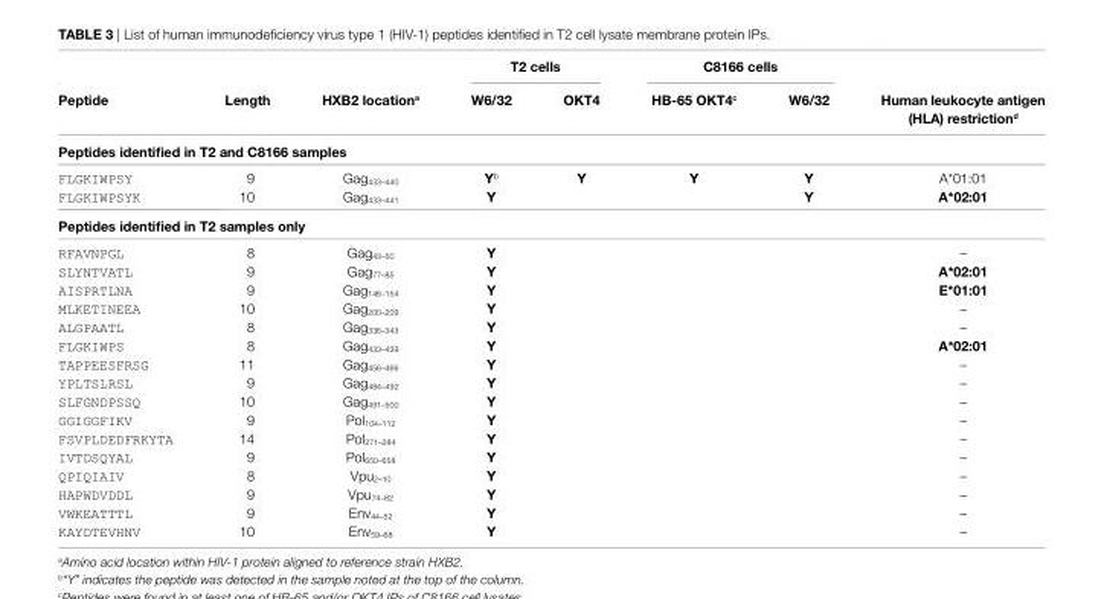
<table><thead><tr><td rowspan="2">Peptide</td><td rowspan="2">length</td><td rowspan="2">hXB2 location<sup>a</sup></td><td colspan="2">T2 cells</td><td colspan="2">c8166 cells</td><td rowspan="2">human leukocyte antigen (hla) restriction<sup>d</sup></td></tr><tr><td>W6/32</td><td>OKT4</td><td>hB-65 OKT4<sup>c</sup></td><td>W6/32</td></tr></thead><tbody><tr><td colspan="8">Peptides identified in T2 and c8166 samples</td></tr><tr><td>FLGKIWPSY</td><td>9</td><td>Gag<sub>433–440</sub></td><td>Y<sup>b</sup></td><td>Y</td><td>Y</td><td>Y</td><td>A*01:01</td></tr><tr><td>FLGKIWPSYK</td><td>10</td><td>Gag<sub>433–441</sub></td><td>Y</td><td></td><td></td><td>Y</td><td>a*02:01</td></tr><tr><td colspan="8">Peptides identified in T2 samples only</td></tr><tr><td>RFAVNPGL</td><td>8</td><td>Gag<sub>43–50</sub></td><td>Y</td><td></td><td></td><td></td><td>–</td></tr><tr><td>SLYNTVATL</td><td>9</td><td>Gag<sub>77–85</sub></td><td>Y</td><td></td><td></td><td></td><td>a*02:01</td></tr><tr><td>AISPRTLNA</td><td>9</td><td>Gag<sub>146–154</sub></td><td>Y</td><td></td><td></td><td></td><td>e*01:01</td></tr><tr><td>MLKETINEEA</td><td>10</td><td>Gag<sub>200–209</sub></td><td>Y</td><td></td><td></td><td></td><td>–</td></tr><tr><td>ALGPAATL</td><td>8</td><td>Gag<sub>336–343</sub></td><td>Y</td><td></td><td></td><td></td><td>–</td></tr><tr><td>FLGKIWPS</td><td>8</td><td>Gag<sub>433–439</sub></td><td>Y</td><td></td><td></td><td></td><td>a*02:01</td></tr><tr><td>TAPPEESFRSG</td><td>11</td><td>Gag<sub>456–466</sub></td><td>Y</td><td></td><td></td><td></td><td>–</td></tr><tr><td>YPLTSLRSL</td><td>9</td><td>Gag<sub>484–492</sub></td><td>Y</td><td></td><td></td><td></td><td>–</td></tr><tr><td>SLFGNDPSSQ</td><td>10</td><td>Gag<sub>491–500</sub></td><td>Y</td><td></td><td></td><td></td><td>–</td></tr><tr><td>GGIGGFIKV</td><td>9</td><td>Pol<sub>104–112</sub></td><td>Y</td><td></td><td></td><td></td><td>–</td></tr><tr><td>FSVPLDEDFRKYTA</td><td>14</td><td>Pol<sub>271–284</sub></td><td>Y</td><td></td><td></td><td></td><td>–</td></tr><tr><td>IVTDSQYAL</td><td>9</td><td>Pol<sub>650–658</sub></td><td>Y</td><td></td><td></td><td></td><td>–</td></tr><tr><td>QPIQIAIV</td><td>8</td><td>Vpu<sub>2–10</sub></td><td>Y</td><td></td><td></td><td></td><td>–</td></tr><tr><td>HAPWDVDDL</td><td>9</td><td>Vpu<sub>74–82</sub></td><td>Y</td><td></td><td></td><td></td><td>–</td></tr><tr><td>VWKEATTTL</td><td>9</td><td>Env<sub>44–52</sub></td><td>Y</td><td></td><td></td><td></td><td>–</td></tr><tr><td>KAYDTEVHNV</td><td>10</td><td>Env<sub>59–68</sub></td><td>Y</td><td></td><td></td><td></td><td>–</td></tr></tbody></table>